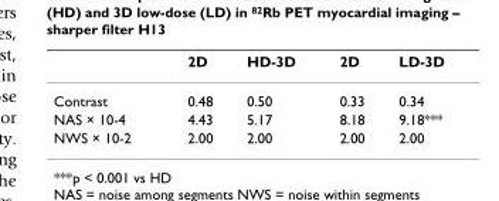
<table><thead><tr><td></td><td>2D</td><td>HD-3D</td><td>2D</td><td>LD-3D</td></tr></thead><tbody><tr><td>Contrast</td><td>0.48</td><td>0.50</td><td>0.33</td><td>0.34</td></tr><tr><td>NAS × 10-4</td><td>4.43</td><td>5.17</td><td>8.18</td><td>9.18***</td></tr><tr><td>NWS × 10-2</td><td>2.00</td><td>2.00</td><td>2.00</td><td>2.00</td></tr></tbody></table>